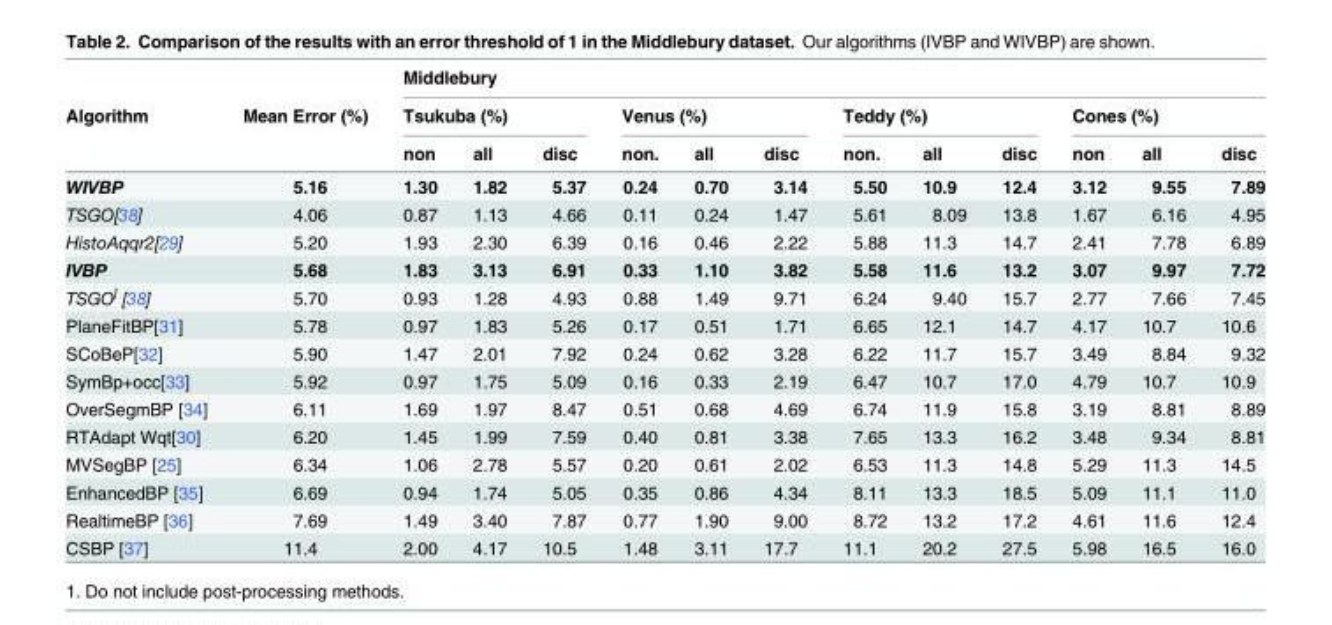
<table><thead><tr><td rowspan="3">Algorithm</td><td rowspan="3">Mean Error (%)</td><td colspan="12">Middlebury</td></tr><tr><td colspan="3">Tsukuba (%)</td><td colspan="3">Venus (%)</td><td colspan="3">Teddy (%)</td><td colspan="3">Cones (%)</td></tr><tr><td>non</td><td>all</td><td>disc</td><td>non.</td><td>all</td><td>disc</td><td>non.</td><td>all</td><td>disc</td><td>non</td><td>all</td><td>disc</td></tr></thead><tbody><tr><td>WIVBP</td><td>5.16</td><td>1.30</td><td>1.82</td><td>5.37</td><td>0.24</td><td>0.70</td><td>3.14</td><td>5.50</td><td>10.9</td><td>12.4</td><td>3.12</td><td>9.55</td><td>7.89</td></tr><tr><td>TSGO[38]</td><td>4.06</td><td>0.87</td><td>1.13</td><td>4.66</td><td>0.11</td><td>0.24</td><td>1.47</td><td>5.61</td><td>8.09</td><td>13.8</td><td>1.67</td><td>6.16</td><td>4.95</td></tr><tr><td>HistoAqqr2[29]</td><td>5.20</td><td>1.93</td><td>2.30</td><td>6.39</td><td>0.16</td><td>0.46</td><td>2.22</td><td>5.88</td><td>11.3</td><td>14.7</td><td>2.41</td><td>7.78</td><td>6.89</td></tr><tr><td>IVBP</td><td>5.68</td><td>1.83</td><td>3.13</td><td>6.91</td><td>0.33</td><td>1.10</td><td>3.82</td><td>5.58</td><td>11.6</td><td>13.2</td><td>3.07</td><td>9.97</td><td>7.72</td></tr><tr><td>TSGO<sup>]</sup> [38]</td><td>5.70</td><td>0.93</td><td>1.28</td><td>4.93</td><td>0.88</td><td>1.49</td><td>9.71</td><td>6.24</td><td>9.40</td><td>15.7</td><td>2.77</td><td>7.66</td><td>7.45</td></tr><tr><td>PlaneFitBP[31]</td><td>5.78</td><td>0.97</td><td>1.83</td><td>5.26</td><td>0.17</td><td>0.51</td><td>1.71</td><td>6.65</td><td>12.1</td><td>14.7</td><td>4.17</td><td>10.7</td><td>10.6</td></tr><tr><td>SCoBeP[32]</td><td>5.90</td><td>1.47</td><td>2.01</td><td>7.92</td><td>0.24</td><td>0.62</td><td>3.28</td><td>6.22</td><td>11.7</td><td>15.7</td><td>3.49</td><td>8.84</td><td>9.32</td></tr><tr><td>SymBp+occ[33]</td><td>5.92</td><td>0.97</td><td>1.75</td><td>5.09</td><td>0.16</td><td>0.33</td><td>2.19</td><td>6.47</td><td>10.7</td><td>17.0</td><td>4.79</td><td>10.7</td><td>10.9</td></tr><tr><td>OverSegmBP [34]</td><td>6.11</td><td>1.69</td><td>1.97</td><td>8.47</td><td>0.51</td><td>0.68</td><td>4.69</td><td>6.74</td><td>11.9</td><td>15.8</td><td>3.19</td><td>8.81</td><td>8.89</td></tr><tr><td>RTAdapt Wqt[30]</td><td>6.20</td><td>1.45</td><td>1.99</td><td>7.59</td><td>0.40</td><td>0.81</td><td>3.38</td><td>7.65</td><td>13.3</td><td>16.2</td><td>3.48</td><td>9.34</td><td>8.81</td></tr><tr><td>MVSegBP [25]</td><td>6.34</td><td>1.06</td><td>2.78</td><td>5.57</td><td>0.20</td><td>0.61</td><td>2.02</td><td>6.53</td><td>11.3</td><td>14.8</td><td>5.29</td><td>11.3</td><td>14.5</td></tr><tr><td>EnhancedBP [35]</td><td>6.69</td><td>0.94</td><td>1.74</td><td>5.05</td><td>0.35</td><td>0.86</td><td>4.34</td><td>8.11</td><td>13.3</td><td>18.5</td><td>5.09</td><td>11.1</td><td>11.0</td></tr><tr><td>RealtimeBP [36]</td><td>7.69</td><td>1.49</td><td>3.40</td><td>7.87</td><td>0.77</td><td>1.90</td><td>9.00</td><td>8.72</td><td>13.2</td><td>17.2</td><td>4.61</td><td>11.6</td><td>12.4</td></tr><tr><td>CSBP [37]</td><td>11.4</td><td>2.00</td><td>4.17</td><td>10.5</td><td>1.48</td><td>3.11</td><td>17.7</td><td>11.1</td><td>20.2</td><td>27.5</td><td>5.98</td><td>16.5</td><td>16.0</td></tr></tbody></table>